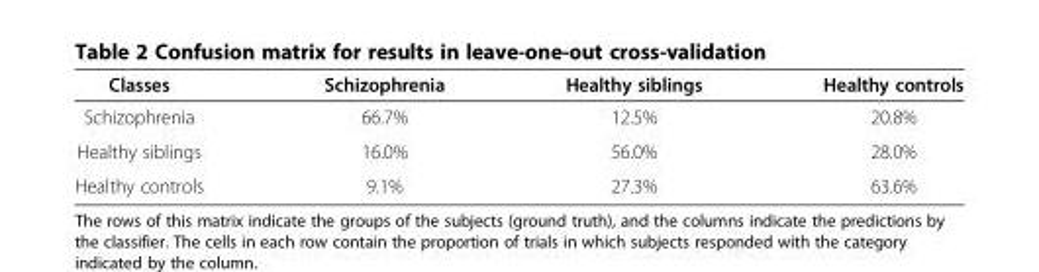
<table><thead><tr><td>Classes</td><td>Schizophrenia</td><td>Healthy siblings</td><td>Healthy controls</td></tr></thead><tbody><tr><td>Schizophrenia</td><td>66.7%</td><td>12.5%</td><td>20.8%</td></tr><tr><td>Healthy siblings</td><td>16.0%</td><td>56.0%</td><td>28.0%</td></tr><tr><td>Healthy controls</td><td>9.1%</td><td>27.3%</td><td>63.6%</td></tr></tbody></table>